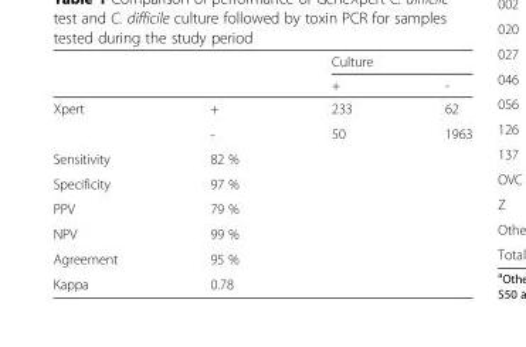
<table><thead><tr><td rowspan="2"></td><td rowspan="2"></td><td colspan="2">Culture</td></tr><tr><td>+</td><td>-</td></tr></thead><tbody><tr><td rowspan="2">Xpert</td><td>+</td><td>233</td><td>62</td></tr><tr><td>-</td><td>50</td><td>1963</td></tr><tr><td>Sensitivity</td><td>82 %</td><td rowspan="6" colspan="2"></td></tr><tr><td>Specificity</td><td>97 %</td></tr><tr><td>PPV</td><td>79 %</td></tr><tr><td>NPV</td><td>99 %</td></tr><tr><td>Agreement</td><td>95 %</td></tr><tr><td>Kappa</td><td>0.78</td></tr></tbody></table>